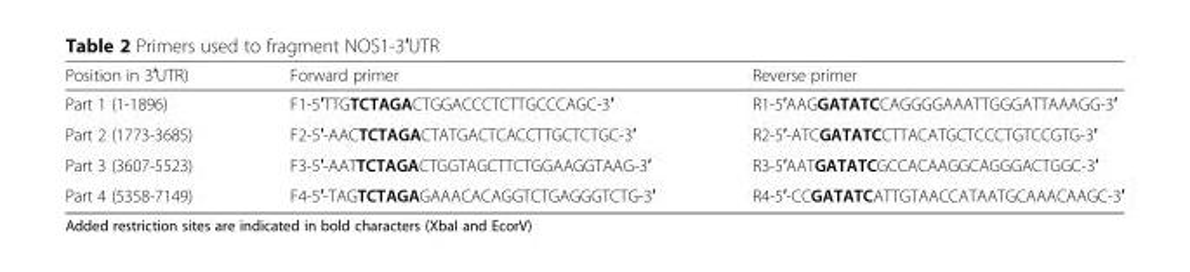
<table><thead><tr><td>Position in 3′UTR)</td><td>Forward primer</td><td>Reverse primer</td></tr></thead><tbody><tr><td>Part 1 (1-1896)</td><td>F1-5′TTGTCTAGACTGGACCCTCTTGCCCAGC-3′</td><td>R1-5′AAGGATATCCAGGGGAAATTGGGATTAAAGG-3′</td></tr><tr><td>Part 2 (1773-3685)</td><td>F2-5′-AACTCTAGACTATGACTCACCTTGCTCTGC-3′</td><td>R2-5′-ATCGATATCCTTACATGCTCCCTGTCCGTG-3′</td></tr><tr><td>Part 3 (3607-5523)</td><td>F3-5′-AATTCTAGACTGGTAGCTTCTGGAAGGTAAG-3′</td><td>R3-5′AATGATATCGCCACAAGGCAGGGACTGGC-3′</td></tr><tr><td>Part 4 (5358-7149)</td><td>F4-5′-TAGTCTAGAGAAACACAGGTCTGAGGGTCTG-3′</td><td>R4-5′-CCGATATCATTGTAACCATAATGCAAACAAGC-3′</td></tr></tbody></table>